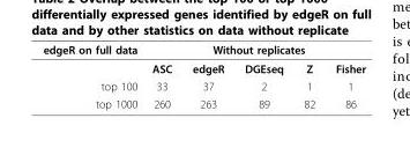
<table><thead><tr><td rowspan="2">edgeR on full data</td><td colspan="5">Without replicates</td></tr><tr><td>ASC</td><td>edgeR</td><td>DGEseq</td><td>Z</td><td>Fisher</td></tr></thead><tbody><tr><td>top 100</td><td>33</td><td>37</td><td>2</td><td>1</td><td>1</td></tr><tr><td>top 1000</td><td>260</td><td>263</td><td>89</td><td>82</td><td>86</td></tr></tbody></table>